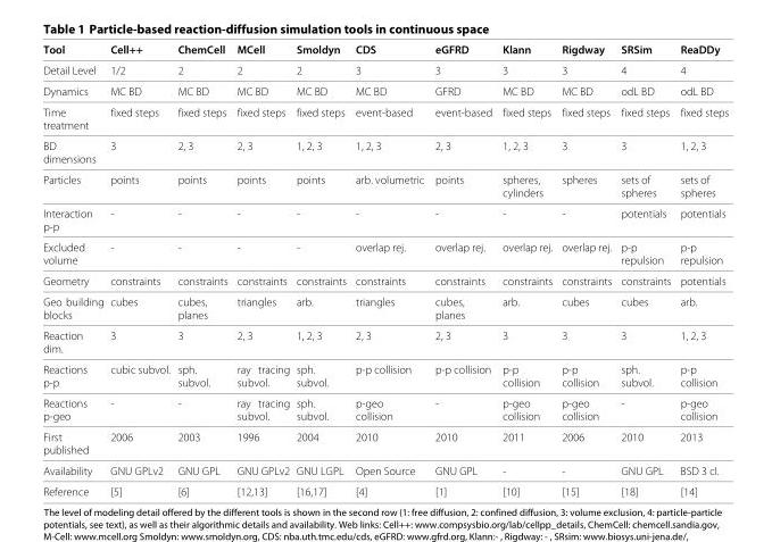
<table><thead><tr><td>Tool</td><td>Cell++</td><td>ChemCell</td><td>MCell</td><td>Smoldyn</td><td>CDS</td><td>eGFRD</td><td>Klann</td><td>Rigdway</td><td>SRSim</td><td>ReaDDy</td></tr></thead><tbody><tr><td>Detail Level</td><td>1/2</td><td>2</td><td>2</td><td>2</td><td>3</td><td>3</td><td>3</td><td>3</td><td>4</td><td>4</td></tr><tr><td>Dynamics</td><td>MC BD</td><td>MC BD</td><td>MC BD</td><td>MC BD</td><td>MC BD</td><td>GFRD</td><td>MC BD</td><td>MC BD</td><td>odL BD</td><td>odL BD</td></tr><tr><td>Time treatment</td><td>fixed steps</td><td>fixed steps</td><td>fixed steps</td><td>fixed steps</td><td>event-based</td><td>event-based</td><td>fixed steps</td><td>fixed steps</td><td>fixed steps</td><td>fixed steps</td></tr><tr><td>BD dimensions</td><td>3</td><td>2, 3</td><td>2, 3</td><td>1, 2, 3</td><td>1, 2, 3</td><td>2, 3</td><td>1, 2, 3</td><td>3</td><td>3</td><td>1, 2, 3</td></tr><tr><td>Particles</td><td>points</td><td>points</td><td>points</td><td>points</td><td>arb. volumetric</td><td>points</td><td>spheres, cylinders</td><td>spheres</td><td>sets of spheres</td><td>sets of spheres</td></tr><tr><td>Interaction p-p</td><td>-</td><td>-</td><td>-</td><td>-</td><td>-</td><td>-</td><td>-</td><td>-</td><td>potentials</td><td>potentials</td></tr><tr><td>Excluded volume</td><td>-</td><td>-</td><td>-</td><td>-</td><td>overlap rej.</td><td>overlap rej.</td><td>overlap rej.</td><td>overlap rej.</td><td>p-p repulsion</td><td>p-p repulsion</td></tr><tr><td>Geometry</td><td>constraints</td><td>constraints</td><td>constraints</td><td>constraints</td><td>constraints</td><td>constraints</td><td>constraints</td><td>constraints</td><td>constraints</td><td>potentials</td></tr><tr><td>Geo building blocks</td><td>cubes</td><td>cubes, planes</td><td>triangles</td><td>arb.</td><td>triangles</td><td>cubes, planes</td><td>arb.</td><td>cubes</td><td>cubes</td><td>arb.</td></tr><tr><td>Reaction dim.</td><td>3</td><td>3</td><td>2, 3</td><td>1, 2, 3</td><td>2, 3</td><td>2, 3</td><td>3</td><td>3</td><td>3</td><td>1, 2, 3</td></tr><tr><td>Reactions p-p</td><td>cubic subvol.</td><td>sph. subvol.</td><td>ray tracing subvol.</td><td>sph. subvol.</td><td>p-p collision</td><td>p-p collision</td><td>p-p collision</td><td>p-p collision</td><td>sph. subvol.</td><td>p-p collision</td></tr><tr><td>Reactions p-geo</td><td>-</td><td>-</td><td>ray tracing subvol.</td><td>sph. subvol.</td><td>p-geo collision</td><td>-</td><td>p-geo collision</td><td>p-geo collision</td><td>-</td><td>p-geo collision</td></tr><tr><td>First published</td><td>2006</td><td>2003</td><td>1996</td><td>2004</td><td>2010</td><td>2010</td><td>2011</td><td>2006</td><td>2010</td><td>2013</td></tr><tr><td>Availability</td><td>GNU GPLv2</td><td>GNU GPL</td><td>GNU GPLv2</td><td>GNU LGPL</td><td>Open Source</td><td>GNU GPL</td><td>-</td><td>-</td><td>GNU GPL</td><td>BSD 3 cl.</td></tr><tr><td>Reference</td><td>[5]</td><td>[6]</td><td>[12,13]</td><td>[16,17]</td><td>[4]</td><td>[1]</td><td>[10]</td><td>[15]</td><td>[18]</td><td>[14]</td></tr></tbody></table>